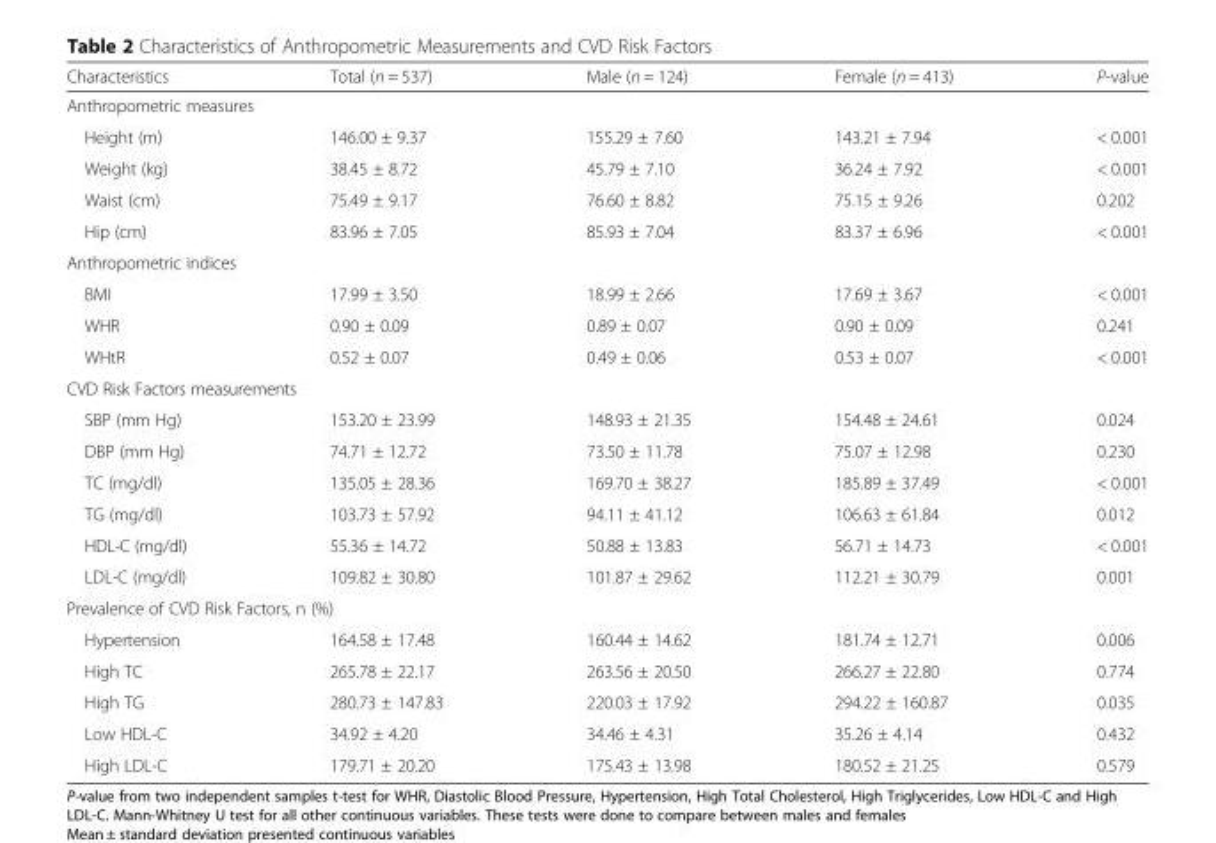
<table><thead><tr><td>Characteristics</td><td>Total (n = 537)</td><td>Male (n = 124)</td><td>Female (n = 413)</td><td>P-value</td></tr></thead><tbody><tr><td colspan="5">Anthropometric measures</td></tr><tr><td>Height (m)</td><td>146.00 ± 9.37</td><td>155.29 ± 7.60</td><td>143.21 ± 7.94</td><td>&lt; 0.001</td></tr><tr><td>Weight (kg)</td><td>38.45 ± 8.72</td><td>45.79 ± 7.10</td><td>36.24 ± 7.92</td><td>&lt; 0.001</td></tr><tr><td>Waist (cm)</td><td>75.49 ± 9.17</td><td>76.60 ± 8.82</td><td>75.15 ± 9.26</td><td>0.202</td></tr><tr><td>Hip (cm)</td><td>83.96 ± 7.05</td><td>85.93 ± 7.04</td><td>83.37 ± 6.96</td><td>&lt; 0.001</td></tr><tr><td colspan="5">Anthropometric indices</td></tr><tr><td>BMI</td><td>17.99 ± 3.50</td><td>18.99 ± 2.66</td><td>17.69 ± 3.67</td><td>&lt; 0.001</td></tr><tr><td>WHR</td><td>0.90 ± 0.09</td><td>0.89 ± 0.07</td><td>0.90 ± 0.09</td><td>0.241</td></tr><tr><td>WHtR</td><td>0.52 ± 0.07</td><td>0.49 ± 0.06</td><td>0.53 ± 0.07</td><td>&lt; 0.001</td></tr><tr><td colspan="5">CVD Risk Factors measurements</td></tr><tr><td>SBP (mm Hg)</td><td>153.20 ± 23.99</td><td>148.93 ± 21.35</td><td>154.48 ± 24.61</td><td>0.024</td></tr><tr><td>DBP (mm Hg)</td><td>74.71 ± 12.72</td><td>73.50 ± 11.78</td><td>75.07 ± 12.98</td><td>0.230</td></tr><tr><td>TC (mg/dl)</td><td>135.05 ± 28.36</td><td>169.70 ± 38.27</td><td>185.89 ± 37.49</td><td>&lt; 0.001</td></tr><tr><td>TG (mg/dl)</td><td>103.73 ± 57.92</td><td>94.11 ± 41.12</td><td>106.63 ± 61.84</td><td>0.012</td></tr><tr><td>HDL-C (mg/dl)</td><td>55.36 ± 14.72</td><td>50.88 ± 13.83</td><td>56.71 ± 14.73</td><td>&lt; 0.001</td></tr><tr><td>LDL-C (mg/dl)</td><td>109.82 ± 30.80</td><td>101.87 ± 29.62</td><td>112.21 ± 30.79</td><td>0.001</td></tr><tr><td colspan="5">Prevalence of CVD Risk Factors, n (%)</td></tr><tr><td>Hypertension</td><td>164.58 ± 17.48</td><td>160.44 ± 14.62</td><td>181.74 ± 12.71</td><td>0.006</td></tr><tr><td>High TC</td><td>265.78 ± 22.17</td><td>263.56 ± 20.50</td><td>266.27 ± 22.80</td><td>0.774</td></tr><tr><td>High TG</td><td>280.73 ± 147.83</td><td>220.03 ± 17.92</td><td>294.22 ± 160.87</td><td>0.035</td></tr><tr><td>Low HDL-C</td><td>34.92 ± 4.20</td><td>34.46 ± 4.31</td><td>35.26 ± 4.14</td><td>0.432</td></tr><tr><td>High LDL-C</td><td>179.71 ± 20.20</td><td>175.43 ± 13.98</td><td>180.52 ± 21.25</td><td>0.579</td></tr></tbody></table>